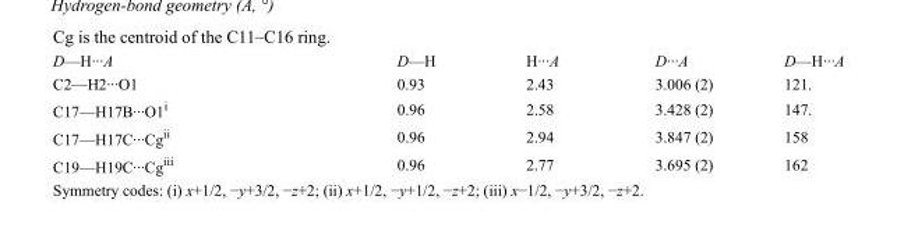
<table><tbody><tr><td>D—H···A</td><td>D—H</td><td>H···A</td><td>D···A</td><td>D—H···A</td></tr><tr><td>C2—H2···O1</td><td>0.93</td><td>2.43</td><td>3.006 (2)</td><td>121.</td></tr><tr><td>C17—H17B···O1<sup>i</sup></td><td>0.96</td><td>2.58</td><td>3.428 (2)</td><td>147.</td></tr><tr><td>C17—H17C···Cg<sup>ii</sup></td><td>0.96</td><td>2.94</td><td>3.847 (2)</td><td>158</td></tr><tr><td>C19—H19C···Cg<sup>iii</sup></td><td>0.96</td><td>2.77</td><td>3.695 (2)</td><td>162</td></tr></tbody></table>